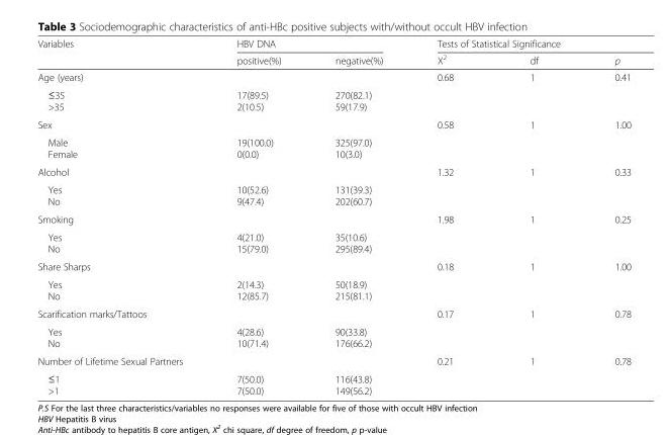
<table><thead><tr><td rowspan="2">Variables</td><td colspan="2">HBV DNA</td><td colspan="3">Tests of Statistical Significance</td></tr><tr><td>positive(%)</td><td>negative(%)</td><td>Χ<sup>2</sup></td><td>df</td><td>p</td></tr></thead><tbody><tr><td>Age (years)</td><td></td><td></td><td>0.68</td><td>1</td><td>0.41</td></tr><tr><td>≤35 &gt;35</td><td>17(89.5) 2(10.5)</td><td>270(82.1) 59(17.9)</td><td></td><td></td><td></td></tr><tr><td>Sex</td><td></td><td></td><td>0.58</td><td>1</td><td>1.00</td></tr><tr><td>Male Female</td><td>19(100.0) 0(0.0)</td><td>325(97.0) 10(3.0)</td><td></td><td></td><td></td></tr><tr><td>Alcohol</td><td></td><td></td><td>1.32</td><td>1</td><td>0.33</td></tr><tr><td>Yes No</td><td>10(52.6) 9(47.4)</td><td>131(39.3) 202(60.7)</td><td></td><td></td><td></td></tr><tr><td>Smoking</td><td></td><td></td><td>1.98</td><td>1</td><td>0.25</td></tr><tr><td>Yes No</td><td>4(21.0) 15(79.0)</td><td>35(10.6) 295(89.4)</td><td></td><td></td><td></td></tr><tr><td>Share Sharps</td><td></td><td></td><td>0.18</td><td>1</td><td>1.00</td></tr><tr><td>Yes No</td><td>2(14.3) 12(85.7)</td><td>50(18.9) 215(81.1)</td><td></td><td></td><td></td></tr><tr><td>Scarification marks/Tattoos</td><td></td><td></td><td>0.17</td><td>1</td><td>0.78</td></tr><tr><td>Yes No</td><td>4(28.6) 10(71.4)</td><td>90(33.8) 176(66.2)</td><td></td><td></td><td></td></tr><tr><td>Number of Lifetime Sexual Partners</td><td></td><td></td><td>0.21</td><td>1</td><td>0.78</td></tr><tr><td>≤1 &gt;1</td><td>7(50.0) 7(50.0)</td><td>116(43.8) 149(56.2)</td><td></td><td></td><td></td></tr></tbody></table>